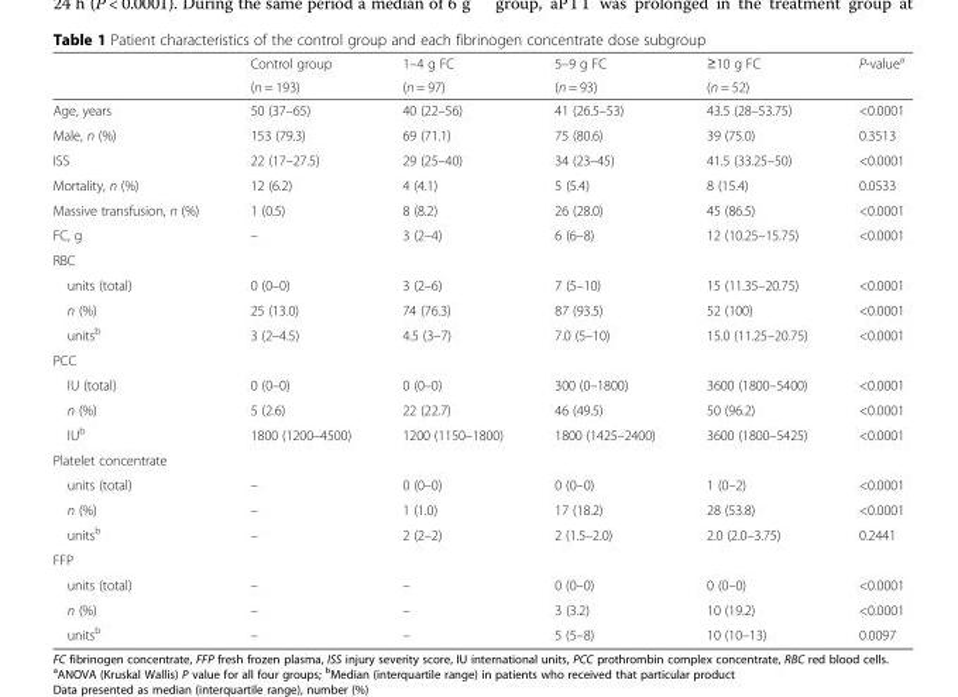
<table><thead><tr><td rowspan="2"></td><td rowspan="2">Control group (n = 193)</td><td rowspan="2">1–4 g FC (n = 97)</td><td rowspan="2">5–9 g FC (n = 93)</td><td rowspan="2">≥10 g FC (n = 52)</td><td rowspan="2">P-value<sup>a</sup></td></tr><tr></tr></thead><tbody><tr><td>Age, years</td><td>50 (37–65)</td><td>40 (22–56)</td><td>41 (26.5–53)</td><td>43.5 (28–53.75)</td><td>&lt;0.0001</td></tr><tr><td>Male, n (%)</td><td>153 (79.3)</td><td>69 (71.1)</td><td>75 (80.6)</td><td>39 (75.0)</td><td>0.3513</td></tr><tr><td>ISS</td><td>22 (17–27.5)</td><td>29 (25–40)</td><td>34 (23–45)</td><td>41.5 (33.25–50)</td><td>&lt;0.0001</td></tr><tr><td>Mortality, n (%)</td><td>12 (6.2)</td><td>4 (4.1)</td><td>5 (5.4)</td><td>8 (15.4)</td><td>0.0533</td></tr><tr><td>Massive transfusion, n (%)</td><td>1 (0.5)</td><td>8 (8.2)</td><td>26 (28.0)</td><td>45 (86.5)</td><td>&lt;0.0001</td></tr><tr><td>FC, g</td><td>–</td><td>3 (2–4)</td><td>6 (6–8)</td><td>12 (10.25–15.75)</td><td>&lt;0.0001</td></tr><tr><td colspan="6">RBC</td></tr><tr><td>units (total)</td><td>0 (0–0)</td><td>3 (2–6)</td><td>7 (5–10)</td><td>15 (11.35–20.75)</td><td>&lt;0.0001</td></tr><tr><td>n (%)</td><td>25 (13.0)</td><td>74 (76.3)</td><td>87 (93.5)</td><td>52 (100)</td><td>&lt;0.0001</td></tr><tr><td>units<sup>b</sup></td><td>3 (2–4.5)</td><td>4.5 (3–7)</td><td>7.0 (5–10)</td><td>15.0 (11.25–20.75)</td><td>&lt;0.0001</td></tr><tr><td colspan="6">PCC</td></tr><tr><td>IU (total)</td><td>0 (0–0)</td><td>0 (0–0)</td><td>300 (0–1800)</td><td>3600 (1800–5400)</td><td>&lt;0.0001</td></tr><tr><td>n (%)</td><td>5 (2.6)</td><td>22 (22.7)</td><td>46 (49.5)</td><td>50 (96.2)</td><td>&lt;0.0001</td></tr><tr><td>IU<sup>b</sup></td><td>1800 (1200–4500)</td><td>1200 (1150–1800)</td><td>1800 (1425–2400)</td><td>3600 (1800–5425)</td><td>&lt;0.0001</td></tr><tr><td colspan="6">Platelet concentrate</td></tr><tr><td>units (total)</td><td>–</td><td>0 (0–0)</td><td>0 (0–0)</td><td>1 (0–2)</td><td>&lt;0.0001</td></tr><tr><td>n (%)</td><td>–</td><td>1 (1.0)</td><td>17 (18.2)</td><td>28 (53.8)</td><td>&lt;0.0001</td></tr><tr><td>units<sup>b</sup></td><td>–</td><td>2 (2–2)</td><td>2 (1.5–2.0)</td><td>2.0 (2.0–3.75)</td><td>0.2441</td></tr><tr><td colspan="6">FFP</td></tr><tr><td>units (total)</td><td>–</td><td>–</td><td>0 (0–0)</td><td>0 (0–0)</td><td>&lt;0.0001</td></tr><tr><td>n (%)</td><td>–</td><td>–</td><td>3 (3.2)</td><td>10 (19.2)</td><td>&lt;0.0001</td></tr><tr><td>units<sup>b</sup></td><td>–</td><td>–</td><td>5 (5–8)</td><td>10 (10–13)</td><td>0.0097</td></tr></tbody></table>